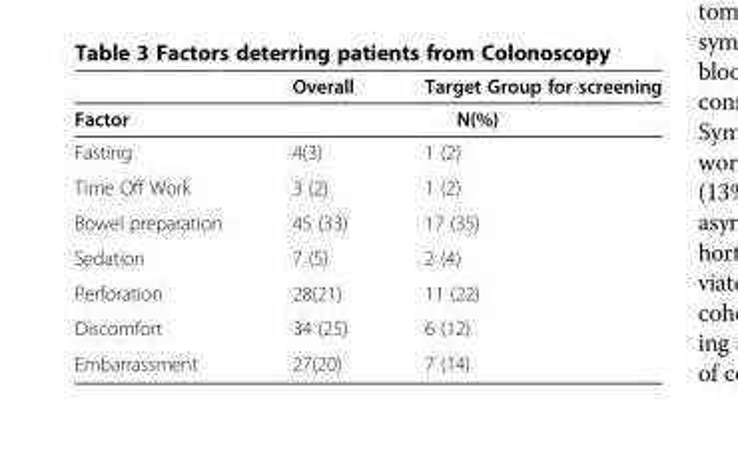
<table><thead><tr><td rowspan="2">Factor</td><td>Overall</td><td>Target Group for screening</td></tr><tr><td colspan="2">N(%)</td></tr></thead><tbody><tr><td>Fasting</td><td>4(3)</td><td>1 (2)</td></tr><tr><td>Time Off Work</td><td>3 (2)</td><td>1 (2)</td></tr><tr><td>Bowel preparation</td><td>45 (33)</td><td>17 (35)</td></tr><tr><td>Sedation</td><td>7 (5)</td><td>2 (4)</td></tr><tr><td>Perforation</td><td>28(21)</td><td>11 (22)</td></tr><tr><td>Discomfort</td><td>34 (25)</td><td>6 (12)</td></tr><tr><td>Embarrassment</td><td>27(20)</td><td>7 (14)</td></tr></tbody></table>